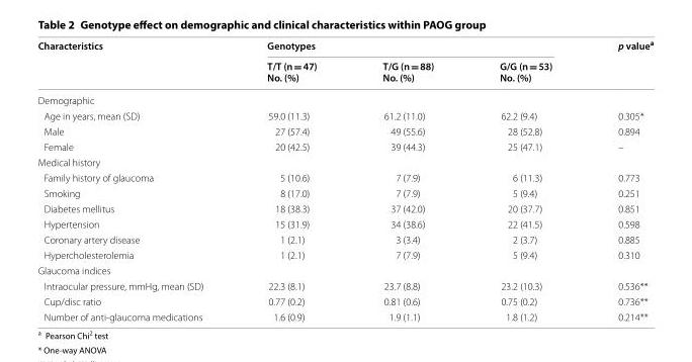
<table><thead><tr><td rowspan="2">Characteristics</td><td colspan="3">Genotypes</td><td rowspan="2">p value<sup>a</sup></td></tr><tr><td>T/T (n = 47) No. (%)</td><td>T/G (n = 88) No. (%)</td><td>G/G (n = 53) No. (%)</td></tr></thead><tbody><tr><td colspan="5">Demographic</td></tr><tr><td>Age in years, mean (SD)</td><td>59.0 (11.3)</td><td>61.2 (11.0)</td><td>62.2 (9.4)</td><td>0.305*</td></tr><tr><td>Male</td><td>27 (57.4)</td><td>49 (55.6)</td><td>28 (52.8)</td><td>0.894</td></tr><tr><td>Female</td><td>20 (42.5)</td><td>39 (44.3)</td><td>25 (47.1)</td><td>–</td></tr><tr><td colspan="5">Medical history</td></tr><tr><td>Family history of glaucoma</td><td>5 (10.6)</td><td>7 (7.9)</td><td>6 (11.3)</td><td>0.773</td></tr><tr><td>Smoking</td><td>8 (17.0)</td><td>7 (7.9)</td><td>5 (9.4)</td><td>0.251</td></tr><tr><td>Diabetes mellitus</td><td>18 (38.3)</td><td>37 (42.0)</td><td>20 (37.7)</td><td>0.851</td></tr><tr><td>Hypertension</td><td>15 (31.9)</td><td>34 (38.6)</td><td>22 (41.5)</td><td>0.598</td></tr><tr><td>Coronary artery disease</td><td>1 (2.1)</td><td>3 (3.4)</td><td>2 (3.7)</td><td>0.885</td></tr><tr><td>Hypercholesterolemia</td><td>1 (2.1)</td><td>7 (7.9)</td><td>5 (9.4)</td><td>0.310</td></tr><tr><td colspan="5">Glaucoma indices</td></tr><tr><td>Intraocular pressure, mmHg, mean (SD)</td><td>22.3 (8.1)</td><td>23.7 (8.8)</td><td>23.2 (10.3)</td><td>0.536**</td></tr><tr><td>Cup/disc ratio</td><td>0.77 (0.2)</td><td>0.81 (0.6)</td><td>0.75 (0.2)</td><td>0.736**</td></tr><tr><td>Number of anti‑glaucoma medications</td><td>1.6 (0.9)</td><td>1.9 (1.1)</td><td>1.8 (1.2)</td><td>0.214**</td></tr></tbody></table>